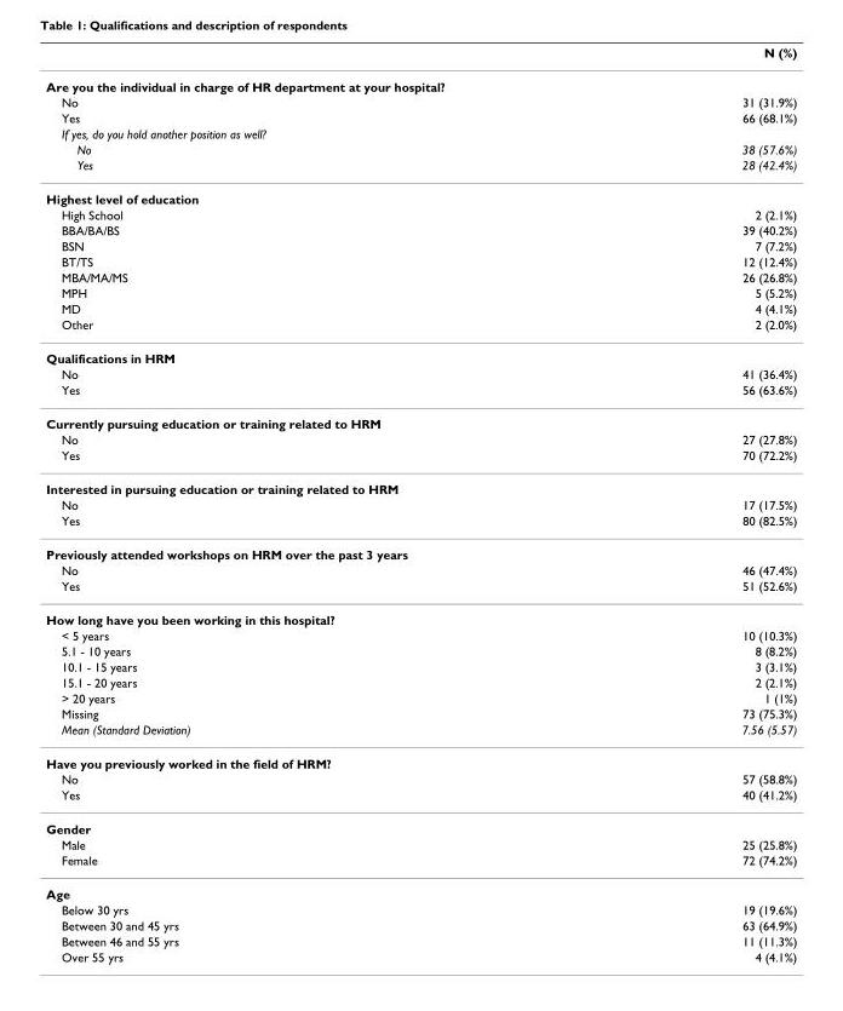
<table><thead><tr><td></td><td>N (%)</td></tr></thead><tbody><tr><td colspan="2">Are you the individual in charge of HR department at your hospital?</td></tr><tr><td>No</td><td>31 (31.9%)</td></tr><tr><td>Yes</td><td>66 (68.1%)</td></tr><tr><td colspan="2">If yes, do you hold another position as well?</td></tr><tr><td>No</td><td>38 (57.6%)</td></tr><tr><td>Yes</td><td>28 (42.4%)</td></tr><tr><td colspan="2">Highest level of education</td></tr><tr><td>High School</td><td>2 (2.1%)</td></tr><tr><td>BBA/BA/BS</td><td>39 (40.2%)</td></tr><tr><td>BSN</td><td>7 (7.2%)</td></tr><tr><td>BT/TS</td><td>12 (12.4%)</td></tr><tr><td>MBA/MA/MS</td><td>26 (26.8%)</td></tr><tr><td>MPH</td><td>5 (5.2%)</td></tr><tr><td>MD</td><td>4 (4.1%)</td></tr><tr><td>Other</td><td>2 (2.0%)</td></tr><tr><td colspan="2">Qualifications in HRM</td></tr><tr><td>No</td><td>41 (36.4%)</td></tr><tr><td>Yes</td><td>56 (63.6%)</td></tr><tr><td colspan="2">Currently pursuing education or training related to HRM</td></tr><tr><td>No</td><td>27 (27.8%)</td></tr><tr><td>Yes</td><td>70 (72.2%)</td></tr><tr><td colspan="2">Interested in pursuing education or training related to HRM</td></tr><tr><td>No</td><td>17 (17.5%)</td></tr><tr><td>Yes</td><td>80 (82.5%)</td></tr><tr><td colspan="2">Previously attended workshops on HRM over the past 3 years</td></tr><tr><td>No</td><td>46 (47.4%)</td></tr><tr><td>Yes</td><td>51 (52.6%)</td></tr><tr><td colspan="2">How long have you been working in this hospital?</td></tr><tr><td>&lt; 5 years</td><td>10 (10.3%)</td></tr><tr><td>5.1 - 10 years</td><td>8 (8.2%)</td></tr><tr><td>10.1 - 15 years</td><td>3 (3.1%)</td></tr><tr><td>15.1 - 20 years</td><td>2 (2.1%)</td></tr><tr><td>&gt; 20 years</td><td>1 (1%)</td></tr><tr><td>Missing</td><td>73 (75.3%)</td></tr><tr><td>Mean (Standard Deviation)</td><td>7.56 (5.57)</td></tr><tr><td colspan="2">Have you previously worked in the field of HRM?</td></tr><tr><td>No</td><td>57 (58.8%)</td></tr><tr><td>Yes</td><td>40 (41.2%)</td></tr><tr><td colspan="2">Gender</td></tr><tr><td>Male</td><td>25 (25.8%)</td></tr><tr><td>Female</td><td>72 (74.2%)</td></tr><tr><td colspan="2">Age</td></tr><tr><td>Below 30 yrs</td><td>19 (19.6%)</td></tr><tr><td>Between 30 and 45 yrs</td><td>63 (64.9%)</td></tr><tr><td>Between 46 and 55 yrs</td><td>11 (11.3%)</td></tr><tr><td>Over 55 yrs</td><td>4 (4.1%)</td></tr></tbody></table>